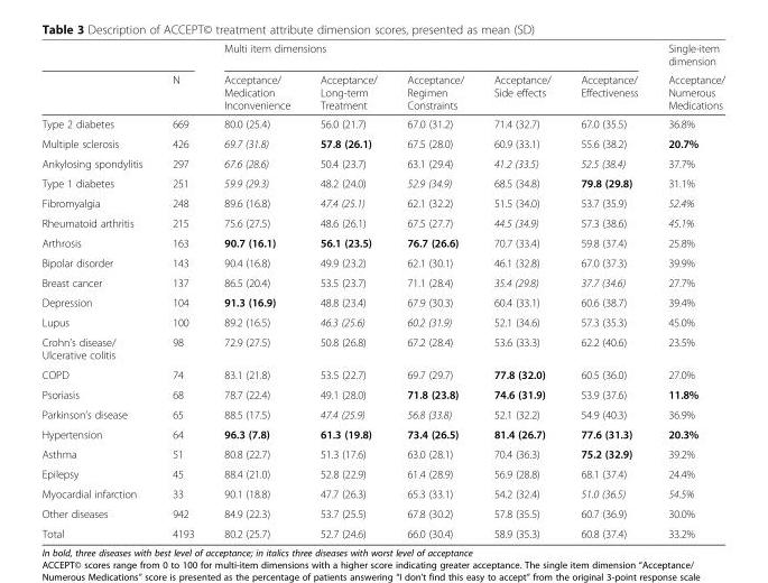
<table><thead><tr><td rowspan="2"></td><td rowspan="2">N</td><td colspan="5">Multi item dimensions</td><td rowspan="2">Single-item dimension Acceptance/ Numerous Medications</td></tr><tr><td>Acceptance/ Medication Inconvenience</td><td>Acceptance/ Long-term Treatment</td><td>Acceptance/ Regimen Constraints</td><td>Acceptance/ Side effects</td><td>Acceptance/ Effectiveness</td></tr></thead><tbody><tr><td>Type 2 diabetes</td><td>669</td><td>80.0 (25.4)</td><td>56.0 (21.7)</td><td>67.0 (31.2)</td><td>71.4 (32.7)</td><td>67.0 (35.5)</td><td>36.8%</td></tr><tr><td>Multiple sclerosis</td><td>426</td><td>69.7 (31.8)</td><td>57.8 (26.1)</td><td>67.5 (28.0)</td><td>60.9 (33.1)</td><td>55.6 (38.2)</td><td>20.7%</td></tr><tr><td>Ankylosing spondylitis</td><td>297</td><td>67.6 (28.6)</td><td>50.4 (23.7)</td><td>63.1 (29.4)</td><td>41.2 (33.5)</td><td>52.5 (38.4)</td><td>37.7%</td></tr><tr><td>Type 1 diabetes</td><td>251</td><td>59.9 (29.3)</td><td>48.2 (24.0)</td><td>52.9 (34.9)</td><td>68.5 (34.8)</td><td>79.8 (29.8)</td><td>31.1%</td></tr><tr><td>Fibromyalgia</td><td>248</td><td>89.6 (16.8)</td><td>47.4 (25.1)</td><td>62.1 (32.2)</td><td>51.5 (34.0)</td><td>53.7 (35.9)</td><td>52.4%</td></tr><tr><td>Rheumatoid arthritis</td><td>215</td><td>75.6 (27.5)</td><td>48.6 (26.1)</td><td>67.5 (27.7)</td><td>44.5 (34.9)</td><td>57.3 (38.6)</td><td>45.1%</td></tr><tr><td>Arthrosis</td><td>163</td><td>90.7 (16.1)</td><td>56.1 (23.5)</td><td>76.7 (26.6)</td><td>70.7 (33.4)</td><td>59.8 (37.4)</td><td>25.8%</td></tr><tr><td>Bipolar disorder</td><td>143</td><td>90.4 (16.8)</td><td>49.9 (23.2)</td><td>62.1 (30.1)</td><td>46.1 (32.8)</td><td>67.0 (37.3)</td><td>39.9%</td></tr><tr><td>Breast cancer</td><td>137</td><td>86.5 (20.4)</td><td>53.5 (23.7)</td><td>71.1 (28.4)</td><td>35.4 (29.8)</td><td>37.7 (34.6)</td><td>27.7%</td></tr><tr><td>Depression</td><td>104</td><td>91.3 (16.9)</td><td>48.8 (23.4)</td><td>67.9 (30.3)</td><td>60.4 (33.1)</td><td>60.6 (38.7)</td><td>39.4%</td></tr><tr><td>Lupus</td><td>100</td><td>89.2 (16.5)</td><td>46.3 (25.6)</td><td>60.2 (31.9)</td><td>52.1 (34.6)</td><td>57.3 (35.3)</td><td>45.0%</td></tr><tr><td>Crohn’s disease/ Ulcerative colitis</td><td>98</td><td>72.9 (27.5)</td><td>50.8 (26.8)</td><td>67.2 (28.4)</td><td>53.6 (33.3)</td><td>62.2 (40.6)</td><td>23.5%</td></tr><tr><td>COPD</td><td>74</td><td>83.1 (21.8)</td><td>53.5 (22.7)</td><td>69.7 (29.7)</td><td>77.8 (32.0)</td><td>60.5 (36.0)</td><td>27.0%</td></tr><tr><td>Psoriasis</td><td>68</td><td>78.7 (22.4)</td><td>49.1 (28.0)</td><td>71.8 (23.8)</td><td>74.6 (31.9)</td><td>53.9 (37.6)</td><td>11.8%</td></tr><tr><td>Parkinson’s disease</td><td>65</td><td>88.5 (17.5)</td><td>47.4 (25.9)</td><td>56.8 (33.8)</td><td>52.1 (32.2)</td><td>54.9 (40.3)</td><td>36.9%</td></tr><tr><td>Hypertension</td><td>64</td><td>96.3 (7.8)</td><td>61.3 (19.8)</td><td>73.4 (26.5)</td><td>81.4 (26.7)</td><td>77.6 (31.3)</td><td>20.3%</td></tr><tr><td>Asthma</td><td>51</td><td>80.8 (22.7)</td><td>51.3 (17.6)</td><td>63.0 (28.1)</td><td>70.4 (36.3)</td><td>75.2 (32.9)</td><td>39.2%</td></tr><tr><td>Epilepsy</td><td>45</td><td>88.4 (21.0)</td><td>52.8 (22.9)</td><td>61.4 (28.9)</td><td>56.9 (28.8)</td><td>68.1 (37.4)</td><td>24.4%</td></tr><tr><td>Myocardial infarction</td><td>33</td><td>90.1 (18.8)</td><td>47.7 (26.3)</td><td>65.3 (33.1)</td><td>54.2 (32.4)</td><td>51.0 (36.5)</td><td>54.5%</td></tr><tr><td>Other diseases</td><td>942</td><td>84.9 (22.3)</td><td>53.7 (25.5)</td><td>67.8 (30.2)</td><td>57.8 (35.5)</td><td>60.7 (36.9)</td><td>30.0%</td></tr><tr><td>Total</td><td>4193</td><td>80.2 (25.7)</td><td>52.7 (24.6)</td><td>66.0 (30.4)</td><td>58.9 (35.3)</td><td>60.8 (37.4)</td><td>33.2%</td></tr></tbody></table>